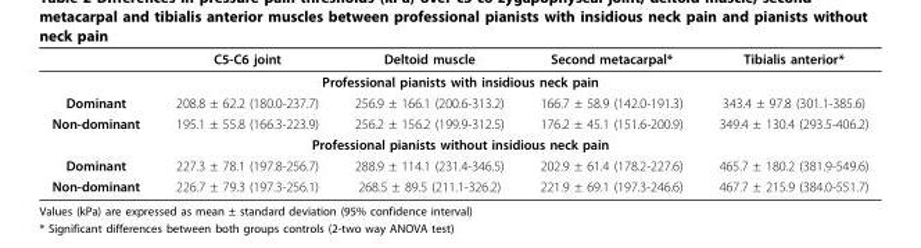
<table><thead><tr><td></td><td>C5-C6 joint</td><td>Deltoid muscle</td><td>Second metacarpal*</td><td>Tibialis anterior*</td></tr></thead><tbody><tr><td colspan="5">Professional pianists with insidious neck pain</td></tr><tr><td>Dominant</td><td>208.8 ± 62.2 (180.0-237.7)</td><td>256.9 ± 166.1 (200.6-313.2)</td><td>166.7 ± 58.9 (142.0-191.3)</td><td>343.4 ± 97.8 (301.1-385.6)</td></tr><tr><td>Non-dominant</td><td>195.1 ± 55.8 (166.3-223.9)</td><td>256.2 ± 156.2 (199.9-312.5)</td><td>176.2 ± 45.1 (151.6-200.9)</td><td>349.4 ± 130.4 (293.5-406.2)</td></tr><tr><td colspan="5">Professional pianists without insidious neck pain</td></tr><tr><td>Dominant</td><td>227.3 ± 78.1 (197.8-256.7)</td><td>288.9 ± 114.1 (231.4-346.5)</td><td>202.9 ± 61.4 (178.2-227.6)</td><td>465.7 ± 180.2 (381.9-549.6)</td></tr><tr><td>Non-dominant</td><td>226.7 ± 79.3 (197.3-256.1)</td><td>268.5 ± 89.5 (211.1-326.2)</td><td>221.9 ± 69.1 (197.3-246.6)</td><td>467.7 ± 215.9 (384.0-551.7)</td></tr></tbody></table>